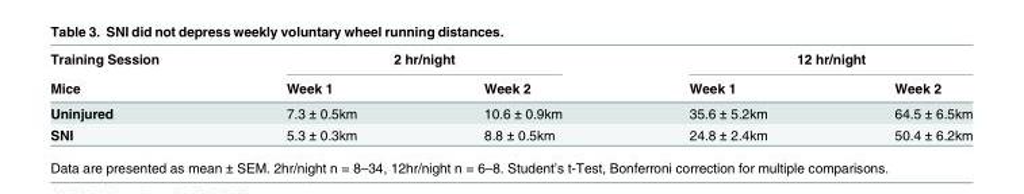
<table><thead><tr><td rowspan="2">Training Session Mice</td><td colspan="2">2 hr/night</td><td colspan="2">12 hr/night</td></tr><tr><td>Week 1</td><td>Week 2</td><td>Week 1</td><td>Week 2</td></tr></thead><tbody><tr><td>Uninjured</td><td>7.3 ± 0.5km</td><td>10.6 ± 0.9km</td><td>35.6 ± 5.2km</td><td>64.5 ± 6.5km</td></tr><tr><td>SNI</td><td>5.3 ± 0.3km</td><td>8.8 ± 0.5km</td><td>24.8 ± 2.4km</td><td>50.4 ± 6.2km</td></tr></tbody></table>